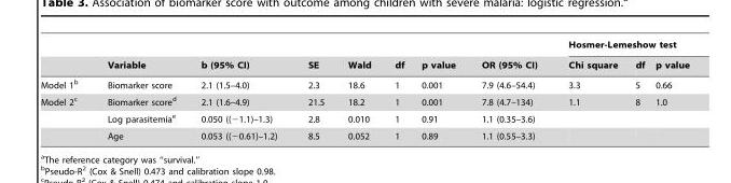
<table><thead><tr><td rowspan="2"></td><td rowspan="2">Variable</td><td rowspan="2">b (95% CI)</td><td rowspan="2">SE</td><td rowspan="2">Wald</td><td rowspan="2">df</td><td rowspan="2">p value</td><td rowspan="2">OR (95% CI)</td><td colspan="3">Hosmer-Lemeshow test</td></tr><tr><td>Chi square</td><td>df</td><td>p value</td></tr></thead><tbody><tr><td>Model 1<sup>b</sup></td><td>Biomarker score</td><td>2.1 (1.5–4.0)</td><td>2.3</td><td>18.6</td><td>1</td><td>0.001</td><td>7.9 (4.6–54.4)</td><td>3.3</td><td>5</td><td>0.66</td></tr><tr><td rowspan="3">Model 2<sup>c</sup></td><td>Biomarker score<sup>d</sup></td><td>2.1 (1.6–4.9)</td><td>21.5</td><td>18.2</td><td>1</td><td>0.001</td><td>7.8 (4.7–134)</td><td>1.1</td><td>8</td><td>1.0</td></tr><tr><td>Log parasitemia<sup>e</sup></td><td>0.050 ((−1.1)–1.3)</td><td>2.8</td><td>0.010</td><td>1</td><td>0.91</td><td>1.1 (0.35–3.6)</td><td></td><td></td><td></td></tr><tr><td>Age</td><td>0.053 ((−0.61)–1.2)</td><td>8.5</td><td>0.052</td><td>1</td><td>0.89</td><td>1.1 (0.55–3.3)</td><td></td><td></td><td></td></tr></tbody></table>